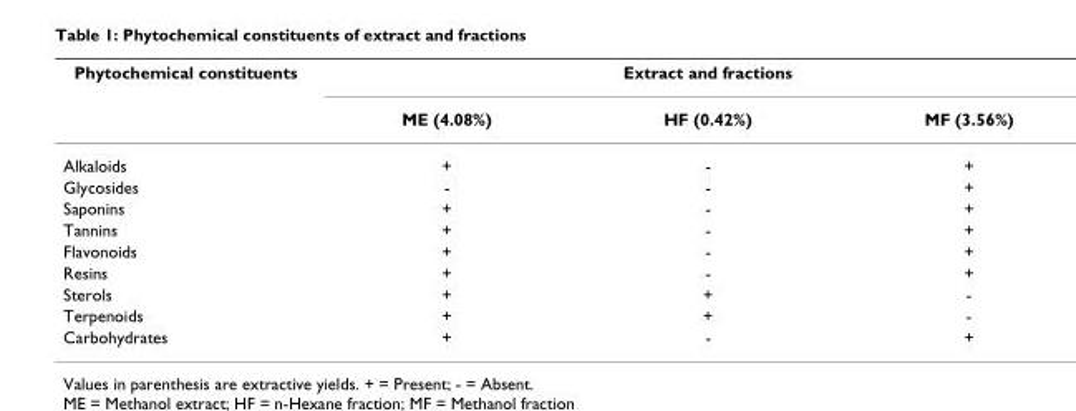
<table><thead><tr><td rowspan="2">Phytochemical constituents</td><td colspan="3">Extract and fractions</td></tr><tr><td>ME (4.08%)</td><td>HF (0.42%)</td><td>MF (3.56%)</td></tr></thead><tbody><tr><td>Alkaloids</td><td>+</td><td>-</td><td>+</td></tr><tr><td>Glycosides</td><td>-</td><td>-</td><td>+</td></tr><tr><td>Saponins</td><td>+</td><td>-</td><td>+</td></tr><tr><td>Tannins</td><td>+</td><td>-</td><td>+</td></tr><tr><td>Flavonoids</td><td>+</td><td>-</td><td>+</td></tr><tr><td>Resins</td><td>+</td><td>-</td><td>+</td></tr><tr><td>Sterols</td><td>+</td><td>+</td><td>-</td></tr><tr><td>Terpenoids</td><td>+</td><td>+</td><td>-</td></tr><tr><td>Carbohydrates</td><td>+</td><td>-</td><td>+</td></tr></tbody></table>